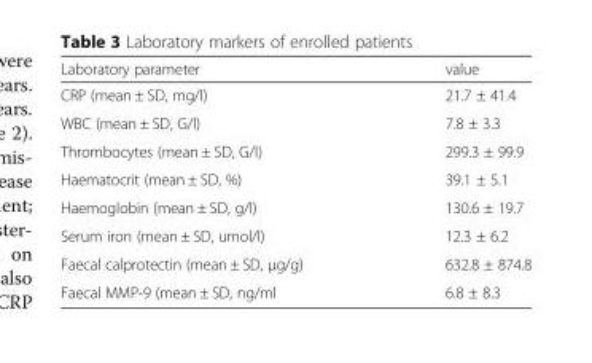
<table><thead><tr><td>Laboratory parameter</td><td>value</td></tr></thead><tbody><tr><td>CRP (mean ± SD, mg/l)</td><td>21.7 ± 41.4</td></tr><tr><td>WBC (mean ± SD, G/l)</td><td>7.8 ± 3.3</td></tr><tr><td>Thrombocytes (mean ± SD, G/l)</td><td>299.3 ± 99.9</td></tr><tr><td>Haematocrit (mean ± SD, %)</td><td>39.1 ± 5.1</td></tr><tr><td>Haemoglobin (mean ± SD, g/l)</td><td>130.6 ± 19.7</td></tr><tr><td>Serum iron (mean ± SD, umol/l)</td><td>12.3 ± 6.2</td></tr><tr><td>Faecal calprotectin (mean ± SD, μg/g)</td><td>632.8 ± 874.8</td></tr><tr><td>Faecal MMP-9 (mean ± SD, ng/ml</td><td>6.8 ± 8.3</td></tr></tbody></table>